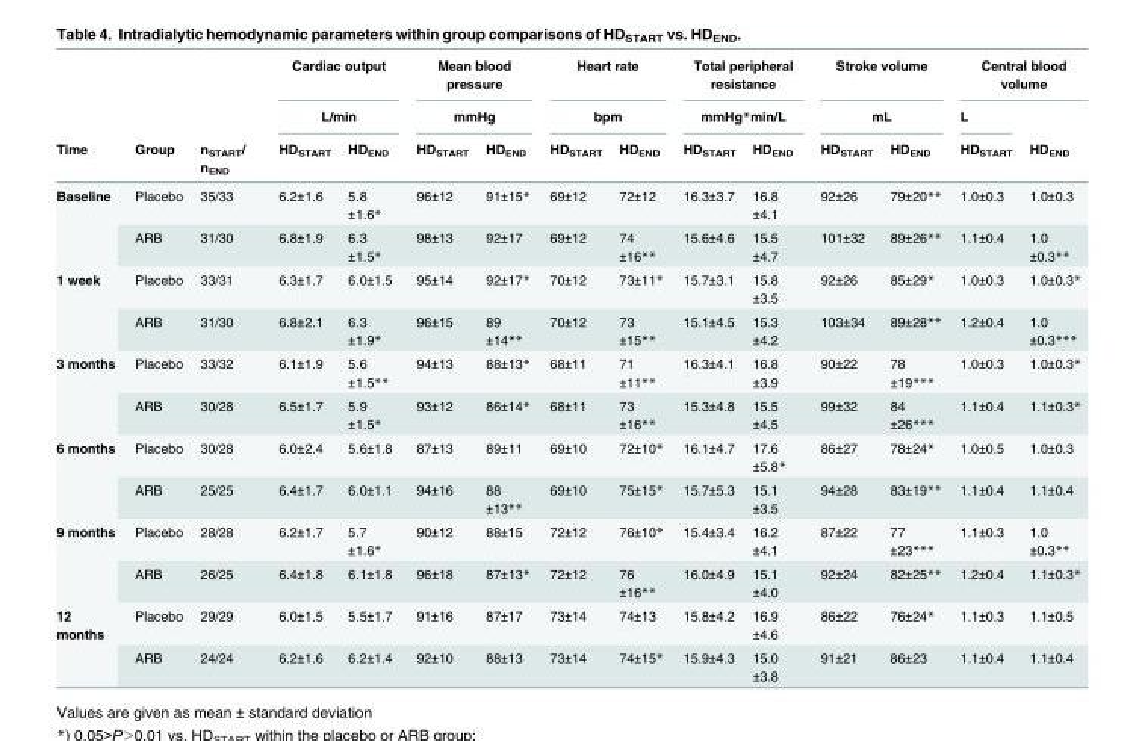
<table><thead><tr><td rowspan="3">Time</td><td rowspan="3">Group</td><td rowspan="3">n<sub>START</sub>/ n<sub>END</sub></td><td rowspan="2" colspan="2">Cardiac output L/min</td><td rowspan="2" colspan="2">Mean blood pressure mmHg</td><td rowspan="2" colspan="2">Heart rate bpm</td><td rowspan="2" colspan="2">Total peripheral resistance mmHg*min/L</td><td rowspan="2" colspan="2">Stroke volume mL</td><td colspan="2">Central blood volume</td></tr><tr><td rowspan="2">L HD<sub>START</sub></td><td rowspan="2">HD<sub>END</sub></td></tr><tr><td>HD<sub>START</sub></td><td>HD<sub>END</sub></td><td>HD<sub>START</sub></td><td>HD<sub>END</sub></td><td>HD<sub>START</sub></td><td>HD<sub>END</sub></td><td>HD<sub>START</sub></td><td>HD<sub>END</sub></td><td>HD<sub>START</sub></td><td>HD<sub>END</sub></td></tr></thead><tbody><tr><td rowspan="2">Baseline</td><td>Placebo</td><td>35/33</td><td>6.2±1.6</td><td>5.8 ±1.6*</td><td>96±12</td><td>91±15*</td><td>69±12</td><td>72±12</td><td>16.3±3.7</td><td>16.8 ±4.1</td><td>92±26</td><td>79±20**</td><td>1.0±0.3</td><td>1.0±0.3</td></tr><tr><td>ARB</td><td>31/30</td><td>6.8±1.9</td><td>6.3 ±1.5*</td><td>98±13</td><td>92±17</td><td>69±12</td><td>74 ±16**</td><td>15.6±4.6</td><td>15.5 ±4.7</td><td>101±32</td><td>89±26**</td><td>1.1±0.4</td><td>1.0 ±0.3**</td></tr><tr><td rowspan="2">1 week</td><td>Placebo</td><td>33/31</td><td>6.3±1.7</td><td>6.0±1.5</td><td>95±14</td><td>92±17*</td><td>70±12</td><td>73±11*</td><td>15.7±3.1</td><td>15.8 ±3.5</td><td>92±26</td><td>85±29*</td><td>1.0±0.3</td><td>1.0±0.3*</td></tr><tr><td>ARB</td><td>31/30</td><td>6.8±2.1</td><td>6.3 ±1.9*</td><td>96±15</td><td>89 ±14**</td><td>70±12</td><td>73 ±15**</td><td>15.1±4.5</td><td>15.3 ±4.2</td><td>103±34</td><td>89±28**</td><td>1.2±0.4</td><td>1.0 ±0.3***</td></tr><tr><td rowspan="2">3 months</td><td>Placebo</td><td>33/32</td><td>6.1±1.9</td><td>5.6 ±1.5**</td><td>94±13</td><td>88±13*</td><td>68±11</td><td>71 ±11**</td><td>16.3±4.1</td><td>16.8 ±3.9</td><td>90±22</td><td>78 ±19***</td><td>1.0±0.3</td><td>1.0±0.3*</td></tr><tr><td>ARB</td><td>30/28</td><td>6.5±1.7</td><td>5.9 ±1.5*</td><td>93±12</td><td>86±14*</td><td>68±11</td><td>73 ±16**</td><td>15.3±4.8</td><td>15.5 ±4.5</td><td>99±32</td><td>84 ±26***</td><td>1.1±0.4</td><td>1.1±0.3*</td></tr><tr><td rowspan="2">6 months</td><td>Placebo</td><td>30/28</td><td>6.0±2.4</td><td>5.6±1.8</td><td>87±13</td><td>89±11</td><td>69±10</td><td>72±10*</td><td>16.1±4.7</td><td>17.6 ±5.8*</td><td>86±27</td><td>78±24*</td><td>1.0±0.5</td><td>1.0±0.3</td></tr><tr><td>ARB</td><td>25/25</td><td>6.4±1.7</td><td>6.0±1.1</td><td>94±16</td><td>88 ±13**</td><td>69±10</td><td>75±15*</td><td>15.7±5.3</td><td>15.1 ±3.5</td><td>94±28</td><td>83±19**</td><td>1.1±0.4</td><td>1.1±0.4</td></tr><tr><td rowspan="2">9 months</td><td>Placebo</td><td>28/28</td><td>6.2±1.7</td><td>5.7 ±1.6*</td><td>90±12</td><td>88±15</td><td>72±12</td><td>76±10*</td><td>15.4±3.4</td><td>16.2 ±4.1</td><td>87±22</td><td>77 ±23***</td><td>1.1±0.3</td><td>1.0 ±0.3**</td></tr><tr><td>ARB</td><td>26/25</td><td>6.4±1.8</td><td>6.1±1.8</td><td>96±18</td><td>87±13*</td><td>72±12</td><td>76 ±16**</td><td>16.0±4.9</td><td>15.1 ±4.0</td><td>92±24</td><td>82±25**</td><td>1.2±0.4</td><td>1.1±0.3*</td></tr><tr><td rowspan="2">12 months</td><td>Placebo</td><td>29/29</td><td>6.0±1.5</td><td>5.5±1.7</td><td>91±16</td><td>87±17</td><td>73±14</td><td>74±13</td><td>15.8±4.2</td><td>16.9 ±4.6</td><td>86±22</td><td>76±24*</td><td>1.1±0.3</td><td>1.1±0.5</td></tr><tr><td>ARB</td><td>24/24</td><td>6.2±1.6</td><td>6.2±1.4</td><td>92±10</td><td>88±13</td><td>73±14</td><td>74±15*</td><td>15.9±4.3</td><td>15.0 ±3.8</td><td>91±21</td><td>86±23</td><td>1.1±0.4</td><td>1.1±0.4</td></tr></tbody></table>